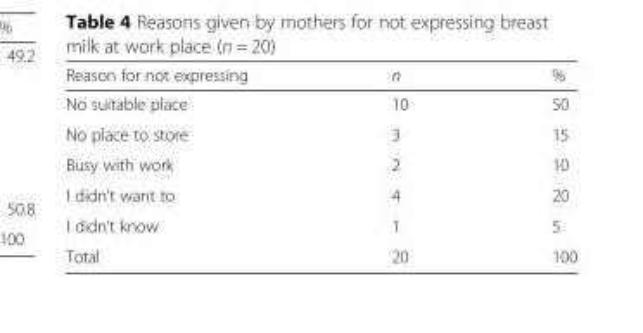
<table><thead><tr><td>Reason for not expressing</td><td>n</td><td>%</td></tr></thead><tbody><tr><td>No suitable place</td><td>10</td><td>50</td></tr><tr><td>No place to store</td><td>3</td><td>15</td></tr><tr><td>Busy with work</td><td>2</td><td>10</td></tr><tr><td>I didn’t want to</td><td>4</td><td>20</td></tr><tr><td>I didn’t know</td><td>1</td><td>5</td></tr><tr><td>Total</td><td>20</td><td>100</td></tr></tbody></table>